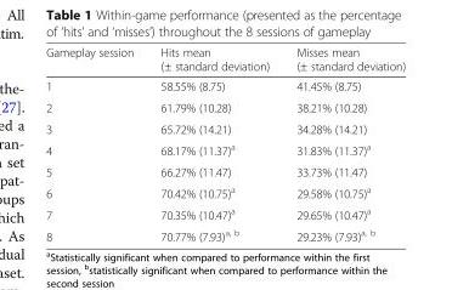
<table><thead><tr><td>Gameplay session</td><td>Hits mean (± standard deviation)</td><td>Misses mean (± standard deviation)</td></tr></thead><tbody><tr><td>1</td><td>58.55% (8.75)</td><td>41.45% (8.75)</td></tr><tr><td>2</td><td>61.79% (10.28)</td><td>38.21% (10.28)</td></tr><tr><td>3</td><td>65.72% (14.21)</td><td>34.28% (14.21)</td></tr><tr><td>4</td><td>68.17% (11.37)<sup>a</sup></td><td>31.83% (11.37)<sup>a</sup></td></tr><tr><td>5</td><td>66.27% (11.47)</td><td>33.73% (11.47)</td></tr><tr><td>6</td><td>70.42% (10.75)<sup>a</sup></td><td>29.58% (10.75)<sup>a</sup></td></tr><tr><td>7</td><td>70.35% (10.47)<sup>a</sup></td><td>29.65% (10.47)<sup>a</sup></td></tr><tr><td>8</td><td>70.77% (7.93)<sup>a, b</sup></td><td>29.23% (7.93)<sup>a, b</sup></td></tr></tbody></table>